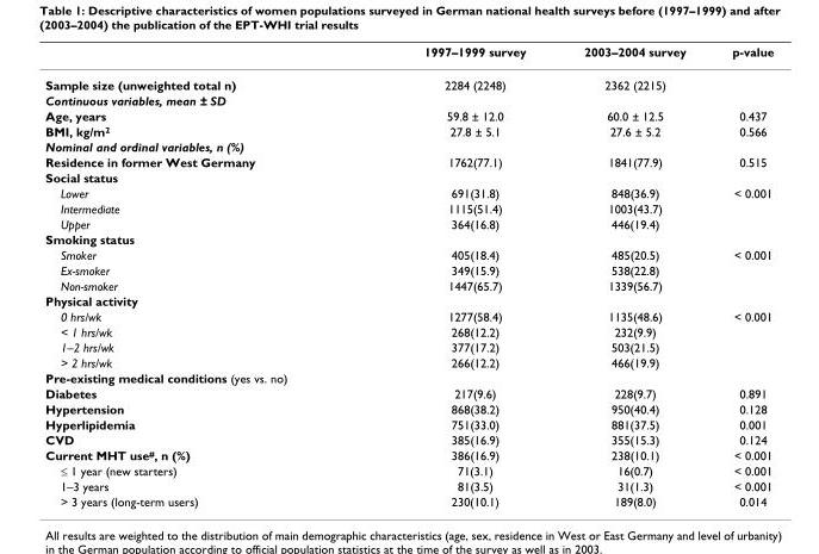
<table><thead><tr><td></td><td>1997–1999 survey</td><td>2003–2004 survey</td><td>p-value</td></tr></thead><tbody><tr><td>Sample size (unweighted total n)</td><td>2284 (2248)</td><td>2362 (2215)</td><td></td></tr><tr><td colspan="4">Continuous variables, mean ± SD</td></tr><tr><td>Age, years</td><td>59.8 ± 12.0</td><td>60.0 ± 12.5</td><td>0.437</td></tr><tr><td>BMI, kg/m<sup>2</sup></td><td>27.8 ± 5.1</td><td>27.6 ± 5.2</td><td>0.566</td></tr><tr><td colspan="4">Nominal and ordinal variables, n (%)</td></tr><tr><td>Residence in former West Germany</td><td>1762(77.1)</td><td>1841(77.9)</td><td>0.515</td></tr><tr><td colspan="4">Social status</td></tr><tr><td>Lower</td><td>691(31.8)</td><td>848(36.9)</td><td>&lt; 0.001</td></tr><tr><td>Intermediate</td><td>1115(51.4)</td><td>1003(43.7)</td><td></td></tr><tr><td>Upper</td><td>364(16.8)</td><td>446(19.4)</td><td></td></tr><tr><td colspan="4">Smoking status</td></tr><tr><td>Smoker</td><td>405(18.4)</td><td>485(20.5)</td><td>&lt; 0.001</td></tr><tr><td>Ex-smoker</td><td>349(15.9)</td><td>538(22.8)</td><td></td></tr><tr><td>Non-smoker</td><td>1447(65.7)</td><td>1339(56.7)</td><td></td></tr><tr><td colspan="4">Physical activity</td></tr><tr><td>0 hrs/wk</td><td>1277(58.4)</td><td>1135(48.6)</td><td>&lt; 0.001</td></tr><tr><td>&lt; 1 hrs/wk</td><td>268(12.2)</td><td>232(9.9)</td><td></td></tr><tr><td>1–2 hrs/wk</td><td>377(17.2)</td><td>503(21.5)</td><td></td></tr><tr><td>&gt; 2 hrs/wk</td><td>266(12.2)</td><td>466(19.9)</td><td></td></tr><tr><td colspan="4">Pre-existing medical conditions (yes vs. no)</td></tr><tr><td>Diabetes</td><td>217(9.6)</td><td>228(9.7)</td><td>0.891</td></tr><tr><td>Hypertension</td><td>868(38.2)</td><td>950(40.4)</td><td>0.128</td></tr><tr><td>Hyperlipidemia</td><td>751(33.0)</td><td>881(37.5)</td><td>0.001</td></tr><tr><td>CVD</td><td>385(16.9)</td><td>355(15.3)</td><td>0.124</td></tr><tr><td>Current MHT use<sup>#</sup>, n (%)</td><td>386(16.9)</td><td>238(10.1)</td><td>&lt; 0.001</td></tr><tr><td>≤ 1 year (new starters)</td><td>71(3.1)</td><td>16(0.7)</td><td>&lt; 0.001</td></tr><tr><td>1–3 years</td><td>81(3.5)</td><td>31(1.3)</td><td>&lt; 0.001</td></tr><tr><td>&gt; 3 years (long-term users)</td><td>230(10.1)</td><td>189(8.0)</td><td>0.014</td></tr></tbody></table>